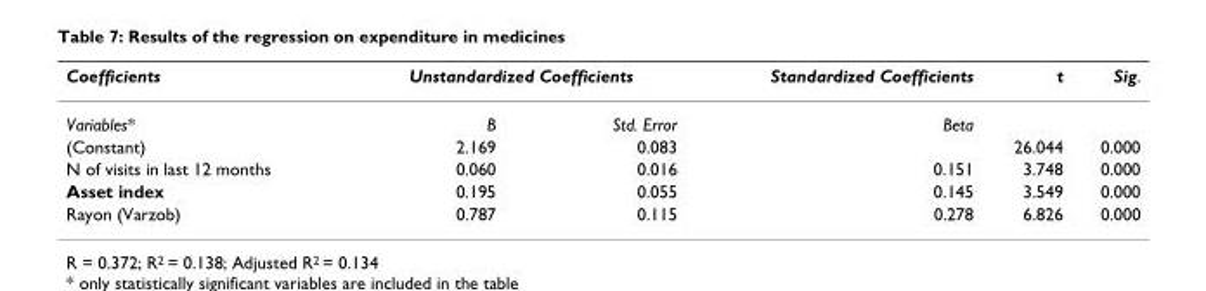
<table><thead><tr><td rowspan="2">Coefficients Variables*</td><td colspan="2">Unstandardized Coefficients</td><td rowspan="2">Standardized Coefficients Beta</td><td rowspan="2">t</td><td rowspan="2">Sig.</td></tr><tr><td>B</td><td>Std. Error</td></tr></thead><tbody><tr><td>(Constant)</td><td>2.169</td><td>0.083</td><td></td><td>26.044</td><td>0.000</td></tr><tr><td>N of visits in last 12 months</td><td>0.060</td><td>0.016</td><td>0.151</td><td>3.748</td><td>0.000</td></tr><tr><td>Asset index</td><td>0.195</td><td>0.055</td><td>0.145</td><td>3.549</td><td>0.000</td></tr><tr><td>Rayon (Varzob)</td><td>0.787</td><td>0.115</td><td>0.278</td><td>6.826</td><td>0.000</td></tr></tbody></table>